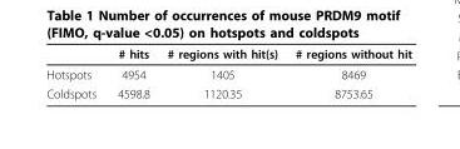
<table><thead><tr><td></td><td># hits</td><td># regions with hit(s)</td><td># regions without hit</td></tr></thead><tbody><tr><td>Hotspots</td><td>4954</td><td>1405</td><td>8469</td></tr><tr><td>Coldspots</td><td>4598.8</td><td>1120.35</td><td>8753.65</td></tr></tbody></table>